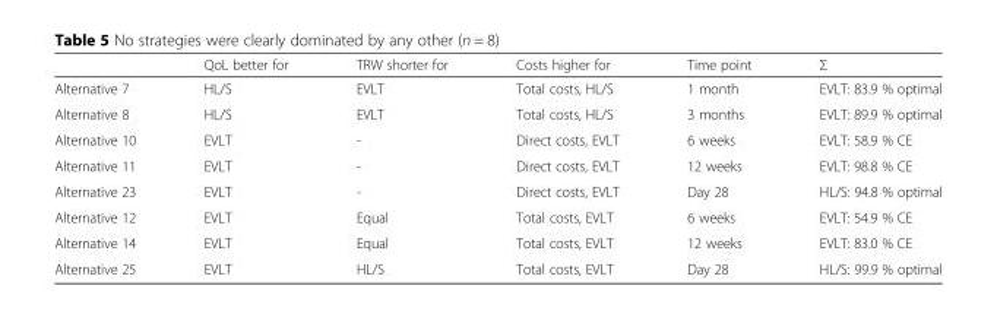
<table><thead><tr><td></td><td>QoL better for</td><td>TRW shorter for</td><td>Costs higher for</td><td>Time point</td><td>Σ</td></tr></thead><tbody><tr><td>Alternative 7</td><td>HL/S</td><td>EVLT</td><td>Total costs, HL/S</td><td>1 month</td><td>EVLT: 83.9 % optimal</td></tr><tr><td>Alternative 8</td><td>HL/S</td><td>EVLT</td><td>Total costs, HL/S</td><td>3 months</td><td>EVLT: 89.9 % optimal</td></tr><tr><td>Alternative 10</td><td>EVLT</td><td>-</td><td>Direct costs, EVLT</td><td>6 weeks</td><td>EVLT: 58.9 % CE</td></tr><tr><td>Alternative 11</td><td>EVLT</td><td>-</td><td>Direct costs, EVLT</td><td>12 weeks</td><td>EVLT: 98.8 % CE</td></tr><tr><td>Alternative 23</td><td>EVLT</td><td>-</td><td>Direct costs, EVLT</td><td>Day 28</td><td>HL/S: 94.8 % optimal</td></tr><tr><td>Alternative 12</td><td>EVLT</td><td>Equal</td><td>Total costs, EVLT</td><td>6 weeks</td><td>EVLT: 54.9 % CE</td></tr><tr><td>Alternative 14</td><td>EVLT</td><td>Equal</td><td>Total costs, EVLT</td><td>12 weeks</td><td>EVLT: 83.0 % CE</td></tr><tr><td>Alternative 25</td><td>EVLT</td><td>HL/S</td><td>Total costs, EVLT</td><td>Day 28</td><td>HL/S: 99.9 % optimal</td></tr></tbody></table>